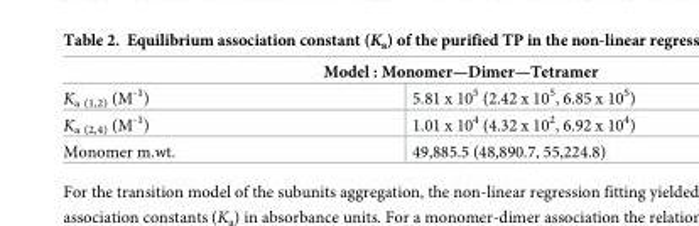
<table><thead><tr><td colspan="2">Model : Monomer—Dimer—Tetramer</td></tr><tr><td>K<sub>a (1,2)</sub> (M<sup>-1</sup>)</td><td>5.81 x 10<sup>5</sup> (2.42 x 10<sup>5</sup>, 6.85 x 10<sup>5</sup>)</td></tr></thead><tbody><tr><td>K<sub>a (2,4)</sub> (M<sup>-1</sup>)</td><td>1.01 x 10<sup>4</sup> (4.32 x 10<sup>2</sup>, 6.92 x 10<sup>4</sup>)</td></tr><tr><td>Monomer m.wt.</td><td>49,885.5 (48,890.7, 55,224.8)</td></tr></tbody></table>